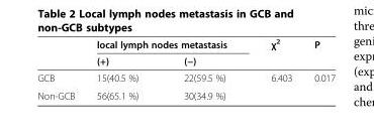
<table><thead><tr><td rowspan="2"></td><td colspan="2">local lymph nodes metastasis</td><td rowspan="2">χ<sup>2</sup></td><td rowspan="2">P</td></tr><tr><td>(+)</td><td>(−)</td></tr></thead><tbody><tr><td>GCB</td><td>15(40.5 %)</td><td>22(59.5 %)</td><td>6.403</td><td>0.017</td></tr><tr><td>Non-GCB</td><td>56(65.1 %)</td><td>30(34.9 %)</td><td></td><td></td></tr></tbody></table>